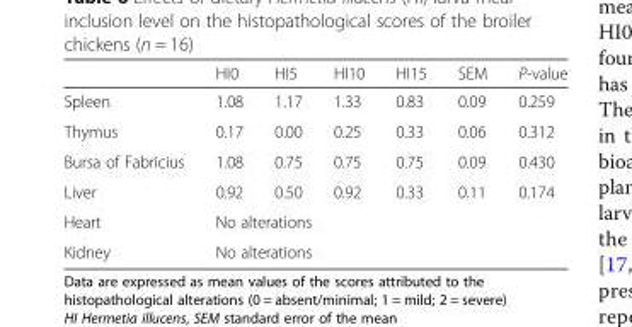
<table><thead><tr><td></td><td>HI0</td><td>HI5</td><td>HI10</td><td>HI15</td><td>SEM</td><td>P-value</td></tr></thead><tbody><tr><td>Spleen</td><td>1.08</td><td>1.17</td><td>1.33</td><td>0.83</td><td>0.09</td><td>0.259</td></tr><tr><td>Thymus</td><td>0.17</td><td>0.00</td><td>0.25</td><td>0.33</td><td>0.06</td><td>0.312</td></tr><tr><td>Bursa of Fabricius</td><td>1.08</td><td>0.75</td><td>0.75</td><td>0.75</td><td>0.09</td><td>0.430</td></tr><tr><td>Liver</td><td>0.92</td><td>0.50</td><td>0.92</td><td>0.33</td><td>0.11</td><td>0.174</td></tr><tr><td>Heart</td><td colspan="6">No alterations</td></tr><tr><td>Kidney</td><td colspan="6">No alterations</td></tr></tbody></table>